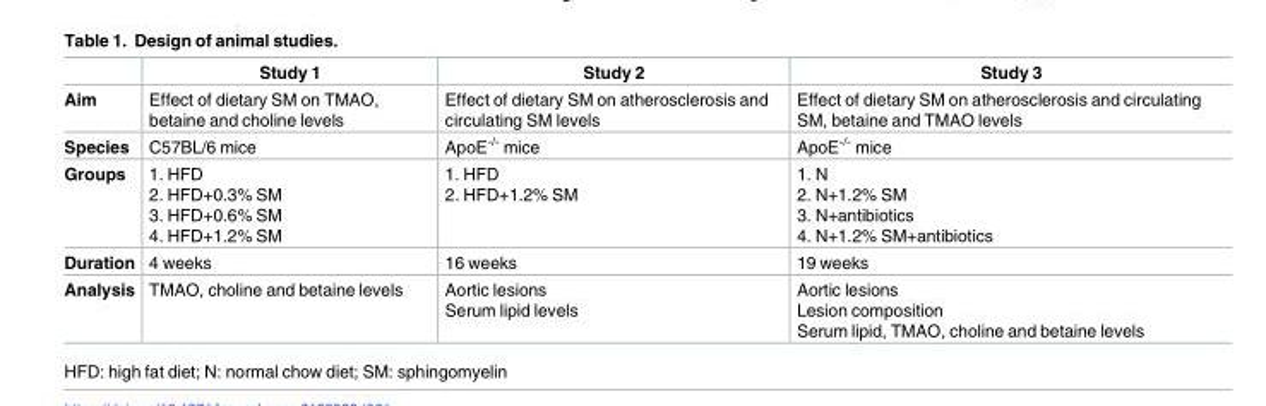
<table><thead><tr><td></td><td>Study 1</td><td>Study 2</td><td>Study 3</td></tr></thead><tbody><tr><td>Aim</td><td>Effect of dietary SM on TMAO, betaine and choline levels</td><td>Effect of dietary SM on atherosclerosis and circulating SM levels</td><td>Effect of dietary SM on atherosclerosis and circulating SM, betaine and TMAO levels</td></tr><tr><td>Species</td><td>C57BL/6 mice</td><td>ApoE<sup>-/-</sup> mice</td><td>ApoE<sup>-/-</sup> mice</td></tr><tr><td>Groups</td><td>1. HFD 2. HFD+0.3% SM 3. HFD+0.6% SM 4. HFD+1.2% SM</td><td>1. HFD 2. HFD+1.2% SM</td><td>1. N 2. N+1.2% SM 3. N+antibiotics 4. N+1.2% SM+antibiotics</td></tr><tr><td>Duration</td><td>4 weeks</td><td>16 weeks</td><td>19 weeks</td></tr><tr><td>Analysis</td><td>TMAO, choline and betaine levels</td><td>Aortic lesions Serum lipid levels</td><td>Aortic lesions Lesion composition Serum lipid, TMAO, choline and betaine levels</td></tr></tbody></table>